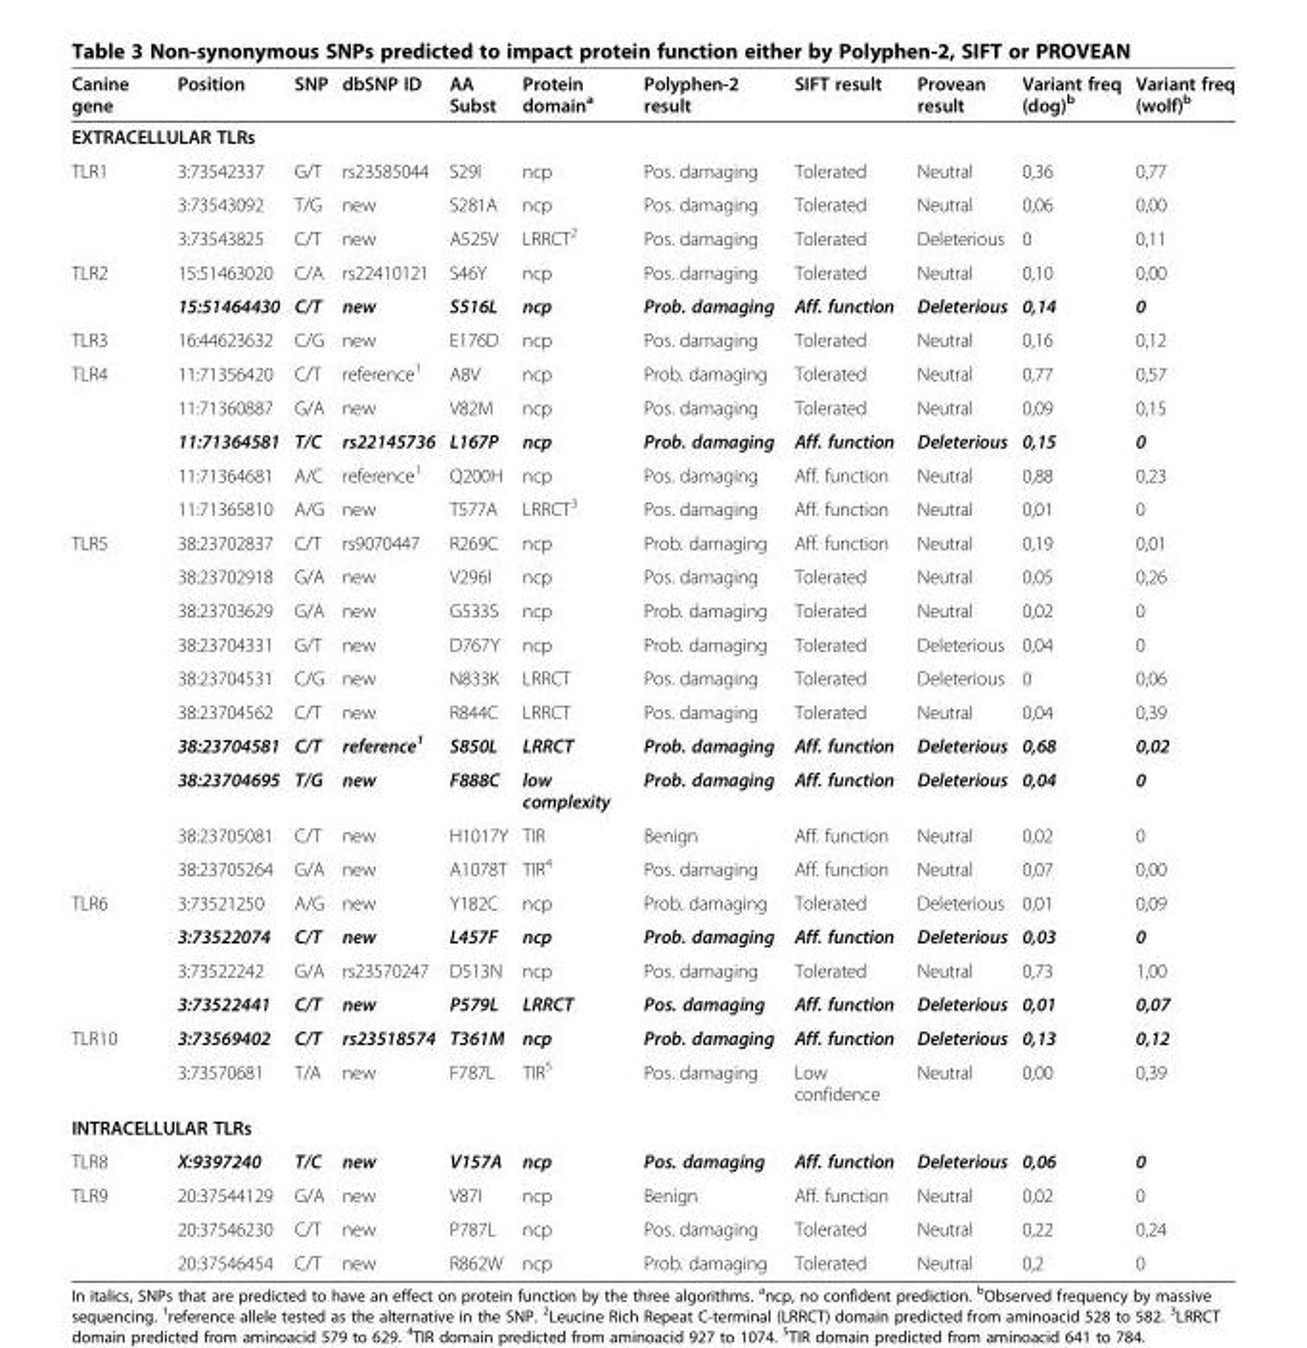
<table><thead><tr><td>Canine gene</td><td>Position</td><td>SNP</td><td>dbSNP ID</td><td>AA Subst</td><td>Protein domain<sup>a</sup></td><td>Polyphen-2 result</td><td>SIFT result</td><td>Provean result</td><td>Variant freq (dog)<sup>b</sup></td><td>Variant freq (wolf)<sup>b</sup></td></tr></thead><tbody><tr><td colspan="11">EXTRACELLULAR TLRs</td></tr><tr><td rowspan="3">TLR1</td><td>3:73542337</td><td>G/T</td><td>rs23585044</td><td>S29I</td><td>ncp</td><td>Pos. damaging</td><td>Tolerated</td><td>Neutral</td><td>0,36</td><td>0,77</td></tr><tr><td>3:73543092</td><td>T/G</td><td>new</td><td>S281A</td><td>ncp</td><td>Pos. damaging</td><td>Tolerated</td><td>Neutral</td><td>0,06</td><td>0,00</td></tr><tr><td>3:73543825</td><td>C/T</td><td>new</td><td>A525V</td><td>LRRCT<sup>2</sup></td><td>Pos. damaging</td><td>Tolerated</td><td>Deleterious</td><td>0</td><td>0,11</td></tr><tr><td rowspan="2">TLR2</td><td>15:51463020</td><td>C/A</td><td>rs22410121</td><td>S46Y</td><td>ncp</td><td>Pos. damaging</td><td>Tolerated</td><td>Neutral</td><td>0,10</td><td>0,00</td></tr><tr><td>15:51464430</td><td>C/T</td><td>new</td><td>S516L</td><td>ncp</td><td>Prob. damaging</td><td>Aff. function</td><td>Deleterious</td><td>0,14</td><td>0</td></tr><tr><td>TLR3</td><td>16:44623632</td><td>C/G</td><td>new</td><td>E176D</td><td>ncp</td><td>Pos. damaging</td><td>Tolerated</td><td>Neutral</td><td>0,16</td><td>0,12</td></tr><tr><td rowspan="5">TLR4</td><td>11:71356420</td><td>C/T</td><td>reference<sup>1</sup></td><td>A8V</td><td>ncp</td><td>Prob. damaging</td><td>Tolerated</td><td>Neutral</td><td>0,77</td><td>0,57</td></tr><tr><td>11:71360887</td><td>G/A</td><td>new</td><td>V82M</td><td>ncp</td><td>Pos. damaging</td><td>Tolerated</td><td>Neutral</td><td>0,09</td><td>0,15</td></tr><tr><td>11:71364581</td><td>T/C</td><td>rs22145736</td><td>L167P</td><td>ncp</td><td>Prob. damaging</td><td>Aff. function</td><td>Deleterious</td><td>0,15</td><td>0</td></tr><tr><td>11:71364681</td><td>A/C</td><td>reference<sup>1</sup></td><td>Q200H</td><td>ncp</td><td>Pos. damaging</td><td>Aff. function</td><td>Neutral</td><td>0,88</td><td>0,23</td></tr><tr><td>11:71365810</td><td>A/G</td><td>new</td><td>T577A</td><td>LRRCT<sup>3</sup></td><td>Pos. damaging</td><td>Aff. function</td><td>Neutral</td><td>0,01</td><td>0</td></tr><tr><td rowspan="10">TLR5</td><td>38:23702837</td><td>C/T</td><td>rs9070447</td><td>R269C</td><td>ncp</td><td>Prob. damaging</td><td>Aff. function</td><td>Neutral</td><td>0,19</td><td>0,01</td></tr><tr><td>38:23702918</td><td>G/A</td><td>new</td><td>V296I</td><td>ncp</td><td>Pos. damaging</td><td>Tolerated</td><td>Neutral</td><td>0,05</td><td>0,26</td></tr><tr><td>38:23703629</td><td>G/A</td><td>new</td><td>G533S</td><td>ncp</td><td>Prob. damaging</td><td>Tolerated</td><td>Neutral</td><td>0,02</td><td>0</td></tr><tr><td>38:23704331</td><td>G/T</td><td>new</td><td>D767Y</td><td>ncp</td><td>Prob. damaging</td><td>Tolerated</td><td>Deleterious</td><td>0,04</td><td>0</td></tr><tr><td>38:23704531</td><td>C/G</td><td>new</td><td>N833K</td><td>LRRCT</td><td>Pos. damaging</td><td>Tolerated</td><td>Deleterious</td><td>0</td><td>0,06</td></tr><tr><td>38:23704562</td><td>C/T</td><td>new</td><td>R844C</td><td>LRRCT</td><td>Pos. damaging</td><td>Tolerated</td><td>Neutral</td><td>0,04</td><td>0,39</td></tr><tr><td>38:23704581</td><td>C/T</td><td>reference<sup>1</sup></td><td>S850L</td><td>LRRCT</td><td>Prob. damaging</td><td>Aff. function</td><td>Deleterious</td><td>0,68</td><td>0,02</td></tr><tr><td>38:23704695</td><td>T/G</td><td>new</td><td>F888C</td><td>low complexity</td><td>Prob. damaging</td><td>Aff. function</td><td>Deleterious</td><td>0,04</td><td>0</td></tr><tr><td>38:23705081</td><td>C/T</td><td>new</td><td>H1017Y</td><td>TIR</td><td>Benign</td><td>Aff. function</td><td>Neutral</td><td>0,02</td><td>0</td></tr><tr><td>38:23705264</td><td>G/A</td><td>new</td><td>A1078T</td><td>TIR<sup>4</sup></td><td>Pos. damaging</td><td>Aff. function</td><td>Neutral</td><td>0,07</td><td>0,00</td></tr><tr><td rowspan="4">TLR6</td><td>3:73521250</td><td>A/G</td><td>new</td><td>Y182C</td><td>ncp</td><td>Prob. damaging</td><td>Tolerated</td><td>Deleterious</td><td>0,01</td><td>0,09</td></tr><tr><td>3:73522074</td><td>C/T</td><td>new</td><td>L457F</td><td>ncp</td><td>Prob. damaging</td><td>Aff. function</td><td>Deleterious</td><td>0,03</td><td>0</td></tr><tr><td>3:73522242</td><td>G/A</td><td>rs23570247</td><td>D513N</td><td>ncp</td><td>Pos. damaging</td><td>Tolerated</td><td>Neutral</td><td>0,73</td><td>1,00</td></tr><tr><td>3:73522441</td><td>C/T</td><td>new</td><td>P579L</td><td>LRRCT</td><td>Pos. damaging</td><td>Aff. function</td><td>Deleterious</td><td>0,01</td><td>0,07</td></tr><tr><td rowspan="2">TLR10</td><td>3:73569402</td><td>C/T</td><td>rs23518574</td><td>T361M</td><td>ncp</td><td>Prob. damaging</td><td>Aff. function</td><td>Deleterious</td><td>0,13</td><td>0,12</td></tr><tr><td>3:73570681</td><td>T/A</td><td>new</td><td>F787L</td><td>TIR<sup>5</sup></td><td>Pos. damaging</td><td>Low confidence</td><td>Neutral</td><td>0,00</td><td>0,39</td></tr><tr><td colspan="11">INTRACELLULAR TLRs</td></tr><tr><td>TLR8</td><td>X:9397240</td><td>T/C</td><td>new</td><td>V157A</td><td>ncp</td><td>Pos. damaging</td><td>Aff. function</td><td>Deleterious</td><td>0,06</td><td>0</td></tr><tr><td rowspan="3">TLR9</td><td>20:37544129</td><td>G/A</td><td>new</td><td>V87I</td><td>ncp</td><td>Benign</td><td>Aff. function</td><td>Neutral</td><td>0,02</td><td>0</td></tr><tr><td>20:37546230</td><td>C/T</td><td>new</td><td>P787L</td><td>ncp</td><td>Pos. damaging</td><td>Tolerated</td><td>Neutral</td><td>0,22</td><td>0,24</td></tr><tr><td>20:37546454</td><td>C/T</td><td>new</td><td>R862W</td><td>ncp</td><td>Prob. damaging</td><td>Tolerated</td><td>Neutral</td><td>0,2</td><td>0</td></tr></tbody></table>